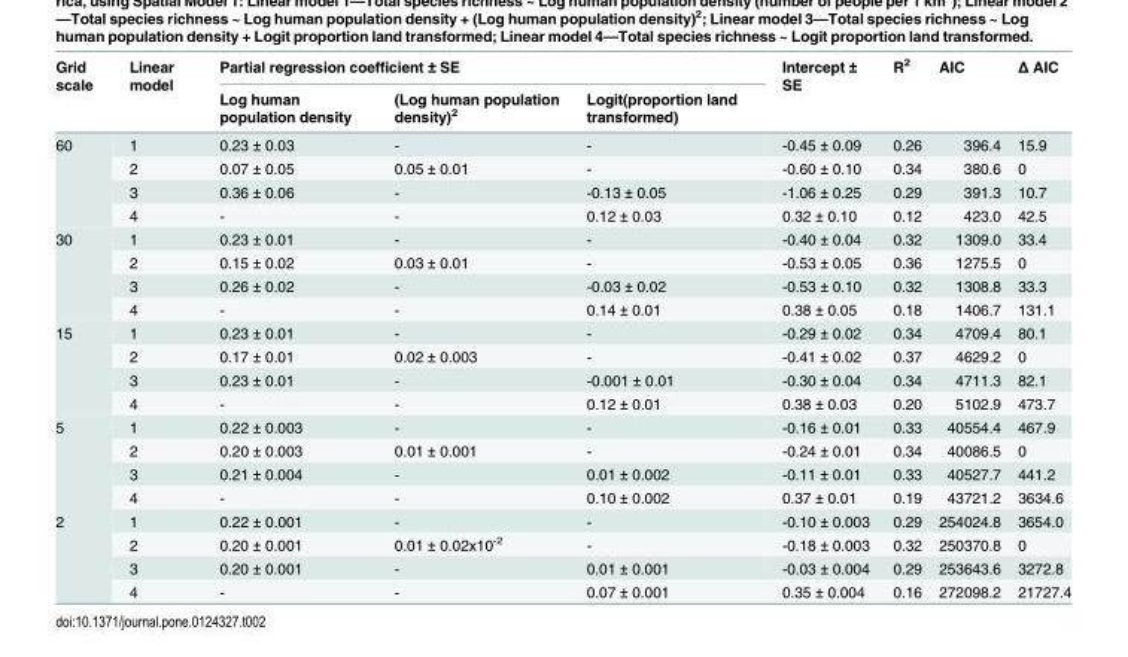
<table><thead><tr><td rowspan="2">Grid scale</td><td rowspan="2">Linear model</td><td colspan="3">Partial regression coefficient ± SE</td><td rowspan="2">Intercept ± SE</td><td rowspan="2">R<sup>2</sup></td><td rowspan="2">AIC</td><td rowspan="2">Δ AIC</td></tr><tr><td>Log human population density</td><td>(Log human population density)<sup>2</sup></td><td>Logit(proportion land transformed)</td></tr></thead><tbody><tr><td rowspan="4">60</td><td>1</td><td>0.23 ± 0.03</td><td>-</td><td>-</td><td>-0.45 ± 0.09</td><td>0.26</td><td>396.4</td><td>15.9</td></tr><tr><td>2</td><td>0.07 ± 0.05</td><td>0.05 ± 0.01</td><td>-</td><td>-0.60 ± 0.10</td><td>0.34</td><td>380.6</td><td>0</td></tr><tr><td>3</td><td>0.36 ± 0.06</td><td>-</td><td>-0.13 ± 0.05</td><td>-1.06 ± 0.25</td><td>0.29</td><td>391.3</td><td>10.7</td></tr><tr><td>4</td><td>-</td><td>-</td><td>0.12 ± 0.03</td><td>0.32 ± 0.10</td><td>0.12</td><td>423.0</td><td>42.5</td></tr><tr><td rowspan="4">30</td><td>1</td><td>0.23 ± 0.01</td><td>-</td><td>-</td><td>-0.40 ± 0.04</td><td>0.32</td><td>1309.0</td><td>33.4</td></tr><tr><td>2</td><td>0.15 ± 0.02</td><td>0.03 ± 0.01</td><td>-</td><td>-0.53 ± 0.05</td><td>0.36</td><td>1275.5</td><td>0</td></tr><tr><td>3</td><td>0.26 ± 0.02</td><td>-</td><td>-0.03 ± 0.02</td><td>-0.53 ± 0.10</td><td>0.32</td><td>1308.8</td><td>33.3</td></tr><tr><td>4</td><td>-</td><td>-</td><td>0.14 ± 0.01</td><td>0.38 ± 0.05</td><td>0.18</td><td>1406.7</td><td>131.1</td></tr><tr><td rowspan="4">15</td><td>1</td><td>0.23 ± 0.01</td><td>-</td><td>-</td><td>-0.29 ± 0.02</td><td>0.34</td><td>4709.4</td><td>80.1</td></tr><tr><td>2</td><td>0.17 ± 0.01</td><td>0.02 ± 0.003</td><td>-</td><td>-0.41 ± 0.02</td><td>0.37</td><td>4629.2</td><td>0</td></tr><tr><td>3</td><td>0.23 ± 0.01</td><td>-</td><td>-0.001 ± 0.01</td><td>-0.30 ± 0.04</td><td>0.34</td><td>4711.3</td><td>82.1</td></tr><tr><td>4</td><td>-</td><td>-</td><td>0.12 ± 0.01</td><td>0.38 ± 0.03</td><td>0.20</td><td>5102.9</td><td>473.7</td></tr><tr><td rowspan="4">5</td><td>1</td><td>0.22 ± 0.003</td><td>-</td><td>-</td><td>-0.16 ± 0.01</td><td>0.33</td><td>40554.4</td><td>467.9</td></tr><tr><td>2</td><td>0.20 ± 0.003</td><td>0.01 ± 0.001</td><td>-</td><td>-0.24 ± 0.01</td><td>0.34</td><td>40086.5</td><td>0</td></tr><tr><td>3</td><td>0.21 ± 0.004</td><td>-</td><td>0.01 ± 0.002</td><td>-0.11 ± 0.01</td><td>0.33</td><td>40527.7</td><td>441.2</td></tr><tr><td>4</td><td>-</td><td>-</td><td>0.10 ± 0.002</td><td>0.37 ± 0.01</td><td>0.19</td><td>43721.2</td><td>3634.6</td></tr><tr><td rowspan="4">2</td><td>1</td><td>0.22 ± 0.001</td><td>-</td><td>-</td><td>-0.10 ± 0.003</td><td>0.29</td><td>254024.8</td><td>3654.0</td></tr><tr><td>2</td><td>0.20 ± 0.001</td><td>0.01 ± 0.02x10<sup>-2</sup></td><td>-</td><td>-0.18 ± 0.003</td><td>0.32</td><td>250370.8</td><td>0</td></tr><tr><td>3</td><td>0.20 ± 0.001</td><td>-</td><td>0.01 ± 0.001</td><td>-0.03 ± 0.004</td><td>0.29</td><td>253643.6</td><td>3272.8</td></tr><tr><td>4</td><td>-</td><td>-</td><td>0.07 ± 0.001</td><td>0.35 ± 0.004</td><td>0.16</td><td>272098.2</td><td>21727.4</td></tr></tbody></table>